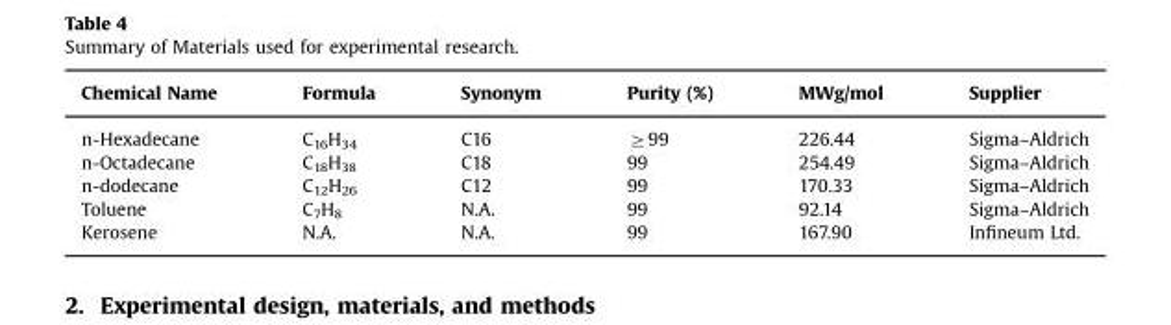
<table><thead><tr><td>Chemical Name</td><td>Formula</td><td>Synonym</td><td>Purity (%)</td><td>MWg/mol</td><td>Supplier</td></tr></thead><tbody><tr><td>n-Hexadecane</td><td>C<sub>16</sub>H<sub>34</sub></td><td>C16</td><td>≥99</td><td>226.44</td><td>Sigma–Aldrich</td></tr><tr><td>n-Octadecane</td><td>C<sub>18</sub>H<sub>38</sub></td><td>C18</td><td>99</td><td>254.49</td><td>Sigma–Aldrich</td></tr><tr><td>n-dodecane</td><td>C<sub>12</sub>H<sub>26</sub></td><td>C12</td><td>99</td><td>170.33</td><td>Sigma–Aldrich</td></tr><tr><td>Toluene</td><td>C<sub>7</sub>H<sub>8</sub></td><td>N.A.</td><td>99</td><td>92.14</td><td>Sigma–Aldrich</td></tr><tr><td>Kerosene</td><td>N.A.</td><td>N.A.</td><td>99</td><td>167.90</td><td>Infineum Ltd.</td></tr></tbody></table>